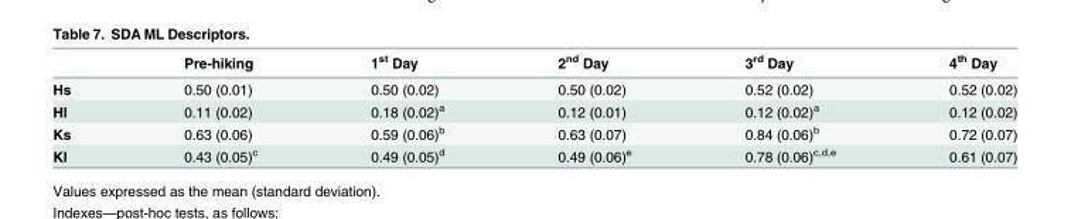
<table><thead><tr><td></td><td>Pre-hiking</td><td>1<sup>st</sup> Day</td><td>2<sup>nd</sup> Day</td><td>3<sup>rd</sup> Day</td><td>4<sup>th</sup> Day</td></tr></thead><tbody><tr><td>Hs</td><td>0.50 (0.01)</td><td>0.50 (0.02)</td><td>0.50 (0.02)</td><td>0.52 (0.02)</td><td>0.52 (0.02)</td></tr><tr><td>Hl</td><td>0.11 (0.02)</td><td>0.18 (0.02)<sup>a</sup></td><td>0.12 (0.01)</td><td>0.12 (0.02)<sup>a</sup></td><td>0.12 (0.02)</td></tr><tr><td>Ks</td><td>0.63 (0.06)</td><td>0.59 (0.06)<sup>b</sup></td><td>0.63 (0.07)</td><td>0.84 (0.06)<sup>b</sup></td><td>0.72 (0.07)</td></tr><tr><td>Kl</td><td>0.43 (0.05)<sup>c</sup></td><td>0.49 (0.05)<sup>d</sup></td><td>0.49 (0.06)<sup>e</sup></td><td>0.78 (0.06)<sup>c,d,e</sup></td><td>0.61 (0.07)</td></tr></tbody></table>